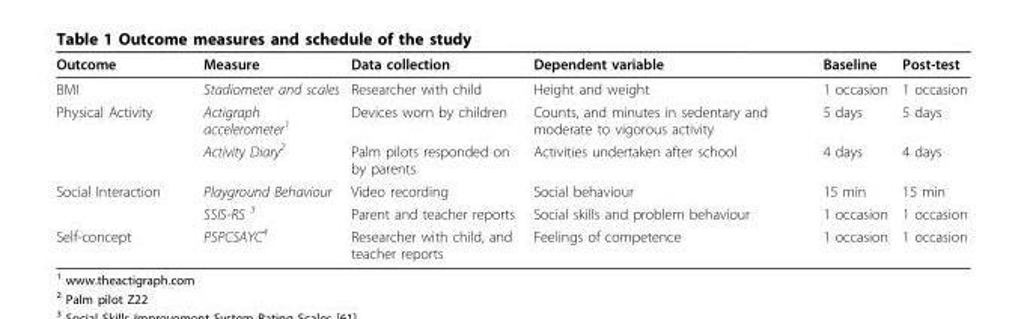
<table><thead><tr><td>Outcome</td><td>Measure</td><td>Data collection</td><td>Dependent variable</td><td>Baseline</td><td>Post-test</td></tr></thead><tbody><tr><td>BMI</td><td>Stadiometer and scales</td><td>Researcher with child</td><td>Height and weight</td><td>1 occasion</td><td>1 occasion</td></tr><tr><td rowspan="2">Physical Activity</td><td>Actigraph accelerometer<sup>1</sup></td><td>Devices worn by children</td><td>Counts, and minutes in sedentary and moderate to vigorous activity</td><td>5 days</td><td>5 days</td></tr><tr><td>Activity Diary<sup>2</sup></td><td>Palm pilots responded on by parents</td><td>Activities undertaken after school</td><td>4 days</td><td>4 days</td></tr><tr><td rowspan="2">Social Interaction</td><td>Playground Behaviour</td><td>Video recording</td><td>Social behaviour</td><td>15 min</td><td>15 min</td></tr><tr><td>SSIS-RS <sup>3</sup></td><td>Parent and teacher reports</td><td>Social skills and problem behaviour</td><td>1 occasion</td><td>1 occasion</td></tr><tr><td>Self-concept</td><td>PSPCSAYC<sup>4</sup></td><td>Researcher with child, and teacher reports</td><td>Feelings of competence</td><td>1 occasion</td><td>1 occasion</td></tr></tbody></table>